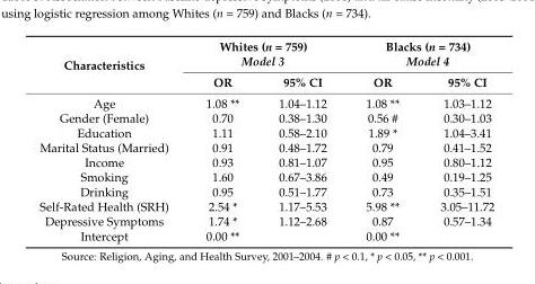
<table><thead><tr><td rowspan="2">Characteristics</td><td colspan="2">Whites (n = 759) Model 3</td><td colspan="2">Blacks (n = 734) Model 4</td></tr><tr><td>OR</td><td>95% CI</td><td>OR</td><td>95% CI</td></tr></thead><tbody><tr><td>Age</td><td>1.08 **</td><td>1.04–1.12</td><td>1.08 **</td><td>1.03–1.12</td></tr><tr><td>Gender (Female)</td><td>0.70</td><td>0.38–1.30</td><td>0.56 #</td><td>0.30–1.03</td></tr><tr><td>Education</td><td>1.11</td><td>0.58–2.10</td><td>1.89 *</td><td>1.04–3.41</td></tr><tr><td>Marital Status (Married)</td><td>0.91</td><td>0.48–1.72</td><td>0.79</td><td>0.41–1.52</td></tr><tr><td>Income</td><td>0.93</td><td>0.81–1.07</td><td>0.95</td><td>0.80–1.12</td></tr><tr><td>Smoking</td><td>1.60</td><td>0.67–3.86</td><td>0.49</td><td>0.19–1.25</td></tr><tr><td>Drinking</td><td>0.95</td><td>0.51–1.77</td><td>0.73</td><td>0.35–1.51</td></tr><tr><td>Self-Rated Health (SRH)</td><td>2.54 *</td><td>1.17–5.53</td><td>5.98 **</td><td>3.05–11.72</td></tr><tr><td>Depressive Symptoms</td><td>1.74 *</td><td>1.12–2.68</td><td>0.87</td><td>0.57–1.34</td></tr><tr><td>Intercept</td><td>0.00 **</td><td></td><td>0.00 **</td><td></td></tr></tbody></table>